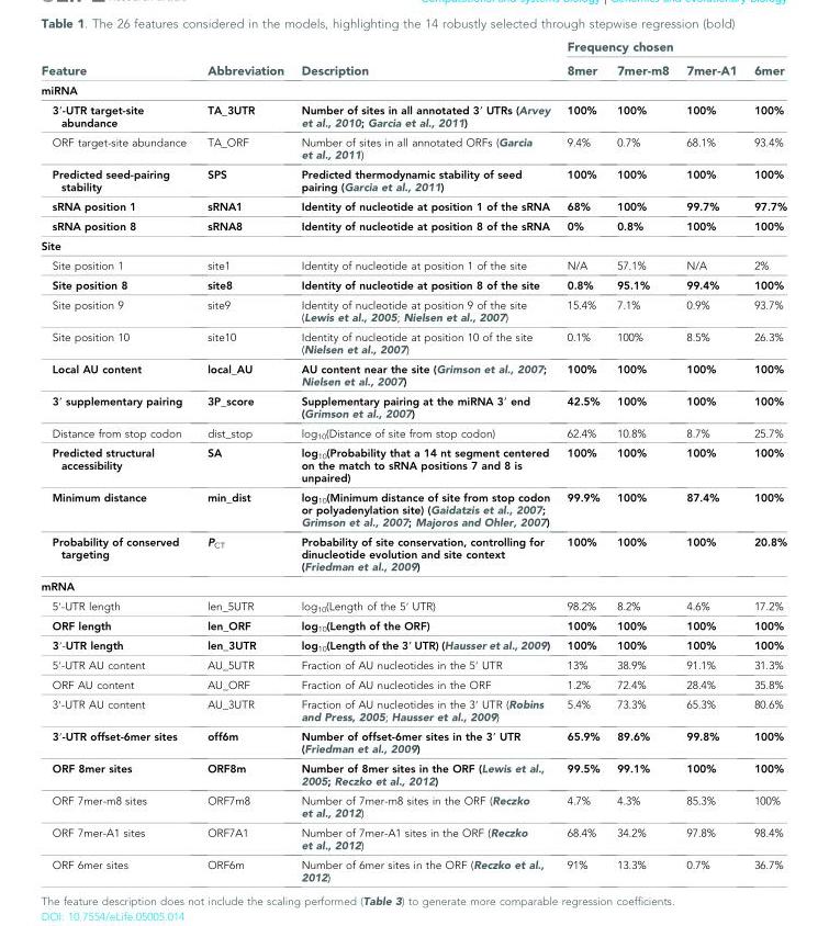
<table><thead><tr><td rowspan="2">Feature</td><td rowspan="2">Abbreviation</td><td rowspan="2">Description</td><td colspan="4">Frequency chosen</td></tr><tr><td>8mer</td><td>7mer-m8</td><td>7mer-A1</td><td>6mer</td></tr></thead><tbody><tr><td colspan="7">miRNA</td></tr><tr><td>3′-UTR target-site abundance</td><td>TA_3UTR</td><td>Number of sites in all annotated 3′ UTRs (Arvey et al., 2010; Garcia et al., 2011)</td><td>100%</td><td>100%</td><td>100%</td><td>100%</td></tr><tr><td>ORF target-site abundance</td><td>TA_ORF</td><td>Number of sites in all annotated ORFs (Garcia et al., 2011)</td><td>9.4%</td><td>0.7%</td><td>68.1%</td><td>93.4%</td></tr><tr><td>Predicted seed-pairing stability</td><td>SPS</td><td>Predicted thermodynamic stability of seed pairing (Garcia et al., 2011)</td><td>100%</td><td>100%</td><td>100%</td><td>100%</td></tr><tr><td>sRNA position 1</td><td>sRNA1</td><td>Identity of nucleotide at position 1 of the sRNA</td><td>68%</td><td>100%</td><td>99.7%</td><td>97.7%</td></tr><tr><td>sRNA position 8</td><td>sRNA8</td><td>Identity of nucleotide at position 8 of the sRNA</td><td>0%</td><td>0.8%</td><td>100%</td><td>100%</td></tr><tr><td colspan="7">Site</td></tr><tr><td>Site position 1</td><td>site1</td><td>Identity of nucleotide at position 1 of the site</td><td>N/A</td><td>57.1%</td><td>N/A</td><td>2%</td></tr><tr><td>Site position 8</td><td>site8</td><td>Identity of nucleotide at position 8 of the site</td><td>0.8%</td><td>95.1%</td><td>99.4%</td><td>100%</td></tr><tr><td>Site position 9</td><td>site9</td><td>Identity of nucleotide at position 9 of the site (Lewis et al., 2005; Nielsen et al., 2007)</td><td>15.4%</td><td>7.1%</td><td>0.9%</td><td>93.7%</td></tr><tr><td>Site position 10</td><td>site10</td><td>Identity of nucleotide at position 10 of the site (Nielsen et al., 2007)</td><td>0.1%</td><td>100%</td><td>8.5%</td><td>26.3%</td></tr><tr><td>Local AU content</td><td>local_AU</td><td>AU content near the site (Grimson et al., 2007; Nielsen et al., 2007)</td><td>100%</td><td>100%</td><td>100%</td><td>100%</td></tr><tr><td>3′ supplementary pairing</td><td>3P_score</td><td>Supplementary pairing at the miRNA 3′ end (Grimson et al., 2007)</td><td>42.5%</td><td>100%</td><td>100%</td><td>100%</td></tr><tr><td>Distance from stop codon</td><td>dist_stop</td><td>log<sub>10</sub>(Distance of site from stop codon)</td><td>62.4%</td><td>10.8%</td><td>8.7%</td><td>25.7%</td></tr><tr><td>Predicted structural accessibility</td><td>SA</td><td>log<sub>10</sub>(Probability that a 14 nt segment centered on the match to sRNA positions 7 and 8 is unpaired)</td><td>100%</td><td>100%</td><td>100%</td><td>100%</td></tr><tr><td>Minimum distance</td><td>min_dist</td><td>log<sub>10</sub>(Minimum distance of site from stop codon or polyadenylation site) (Gaidatzis et al., 2007; Grimson et al., 2007; Majoros and Ohler, 2007)</td><td>99.9%</td><td>100%</td><td>87.4%</td><td>100%</td></tr><tr><td>Probability of conserved targeting</td><td>P<sub>CT</sub></td><td>Probability of site conservation, controlling for dinucleotide evolution and site context (Friedman et al., 2009)</td><td>100%</td><td>100%</td><td>100%</td><td>20.8%</td></tr><tr><td colspan="7">mRNA</td></tr><tr><td>5′-UTR length</td><td>len_5UTR</td><td>log<sub>10</sub>(Length of the 5′ UTR)</td><td>98.2%</td><td>8.2%</td><td>4.6%</td><td>17.2%</td></tr><tr><td>ORF length</td><td>len_ORF</td><td>log<sub>10</sub>(Length of the ORF)</td><td>100%</td><td>100%</td><td>100%</td><td>100%</td></tr><tr><td>3′-UTR length</td><td>len_3UTR</td><td>log<sub>10</sub>(Length of the 3′ UTR) (Hausser et al., 2009)</td><td>100%</td><td>100%</td><td>100%</td><td>100%</td></tr><tr><td>5′-UTR AU content</td><td>AU_5UTR</td><td>Fraction of AU nucleotides in the 5′ UTR</td><td>13%</td><td>38.9%</td><td>91.1%</td><td>31.3%</td></tr><tr><td>ORF AU content</td><td>AU_ORF</td><td>Fraction of AU nucleotides in the ORF</td><td>1.2%</td><td>72.4%</td><td>28.4%</td><td>35.8%</td></tr><tr><td>3′-UTR AU content</td><td>AU_3UTR</td><td>Fraction of AU nucleotides in the 3′ UTR (Robins and Press, 2005; Hausser et al., 2009)</td><td>5.4%</td><td>73.3%</td><td>65.3%</td><td>80.6%</td></tr><tr><td>3′-UTR offset-6mer sites</td><td>off6m</td><td>Number of offset-6mer sites in the 3′ UTR (Friedman et al., 2009)</td><td>65.9%</td><td>89.6%</td><td>99.8%</td><td>100%</td></tr><tr><td>ORF 8mer sites</td><td>ORF8m</td><td>Number of 8mer sites in the ORF (Lewis et al., 2005; Reczko et al., 2012)</td><td>99.5%</td><td>99.1%</td><td>100%</td><td>100%</td></tr><tr><td>ORF 7mer-m8 sites</td><td>ORF7m8</td><td>Number of 7mer-m8 sites in the ORF (Reczko et al., 2012)</td><td>4.7%</td><td>4.3%</td><td>85.3%</td><td>100%</td></tr><tr><td>ORF 7mer-A1 sites</td><td>ORF7A1</td><td>Number of 7mer-A1 sites in the ORF (Reczko et al., 2012)</td><td>68.4%</td><td>34.2%</td><td>97.8%</td><td>98.4%</td></tr><tr><td>ORF 6mer sites</td><td>ORF6m</td><td>Number of 6mer sites in the ORF (Reczko et al., 2012)</td><td>91%</td><td>13.3%</td><td>0.7%</td><td>36.7%</td></tr></tbody></table>